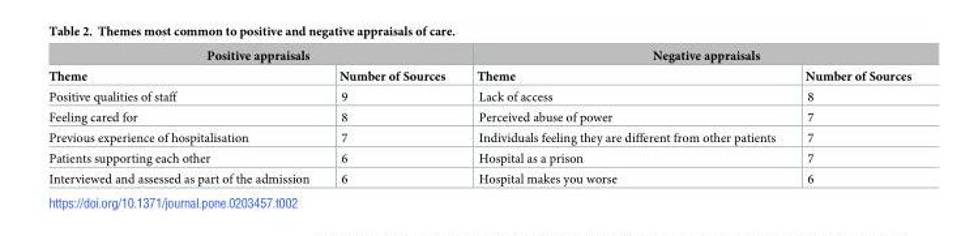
<table><thead><tr><td colspan="2">Positive appraisals</td><td colspan="2">Negative appraisals</td></tr><tr><td>Theme</td><td>Number of Sources</td><td>Theme</td><td>Number of Sources</td></tr></thead><tbody><tr><td>Positive qualities of staff</td><td>9</td><td>Lack of access</td><td>8</td></tr><tr><td>Feeling cared for</td><td>8</td><td>Perceived abuse of power</td><td>7</td></tr><tr><td>Previous experience of hospitalisation</td><td>7</td><td>Individuals feeling they are different from other patients</td><td>7</td></tr><tr><td>Patients supporting each other</td><td>6</td><td>Hospital as a prison</td><td>7</td></tr><tr><td>Interviewed and assessed as part of the admission</td><td>6</td><td>Hospital makes you worse</td><td>6</td></tr></tbody></table>